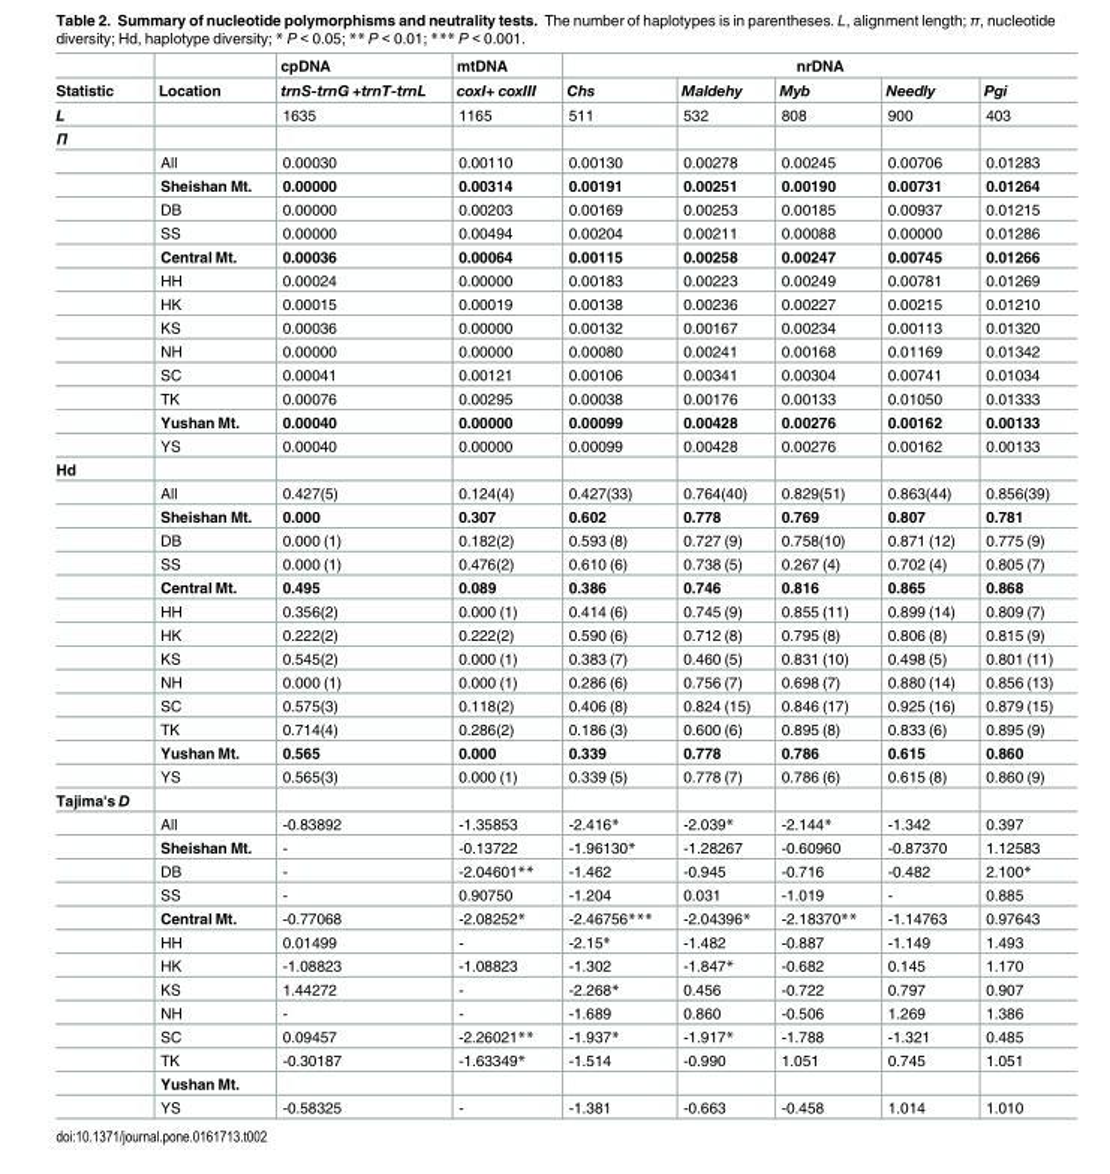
<table><thead><tr><td rowspan="2">Statistic</td><td rowspan="2">Location</td><td rowspan="2">cpDNA trnS-trnG +trnT-trnL</td><td rowspan="2">mtDNA coxI+ coxIII</td><td colspan="5">nrDNA</td></tr><tr><td>Chs</td><td>Maldehy</td><td>Myb</td><td>Needly</td><td>Pgi</td></tr></thead><tbody><tr><td>L</td><td></td><td>1635</td><td>1165</td><td>511</td><td>532</td><td>808</td><td>900</td><td>403</td></tr><tr><td colspan="9">Π</td></tr><tr><td></td><td>All</td><td>0.00030</td><td>0.00110</td><td>0.00130</td><td>0.00278</td><td>0.00245</td><td>0.00706</td><td>0.01283</td></tr><tr><td></td><td>Sheishan Mt.</td><td>0.00000</td><td>0.00314</td><td>0.00191</td><td>0.00251</td><td>0.00190</td><td>0.00731</td><td>0.01264</td></tr><tr><td></td><td>DB</td><td>0.00000</td><td>0.00203</td><td>0.00169</td><td>0.00253</td><td>0.00185</td><td>0.00937</td><td>0.01215</td></tr><tr><td></td><td>SS</td><td>0.00000</td><td>0.00494</td><td>0.00204</td><td>0.00211</td><td>0.00088</td><td>0.00000</td><td>0.01286</td></tr><tr><td></td><td>Central Mt.</td><td>0.00036</td><td>0.00064</td><td>0.00115</td><td>0.00258</td><td>0.00247</td><td>0.00745</td><td>0.01266</td></tr><tr><td></td><td>HH</td><td>0.00024</td><td>0.00000</td><td>0.00183</td><td>0.00223</td><td>0.00249</td><td>0.00781</td><td>0.01269</td></tr><tr><td></td><td>HK</td><td>0.00015</td><td>0.00019</td><td>0.00138</td><td>0.00236</td><td>0.00227</td><td>0.00215</td><td>0.01210</td></tr><tr><td></td><td>KS</td><td>0.00036</td><td>0.00000</td><td>0.00132</td><td>0.00167</td><td>0.00234</td><td>0.00113</td><td>0.01320</td></tr><tr><td></td><td>NH</td><td>0.00000</td><td>0.00000</td><td>0.00080</td><td>0.00241</td><td>0.00168</td><td>0.01169</td><td>0.01342</td></tr><tr><td></td><td>SC</td><td>0.00041</td><td>0.00121</td><td>0.00106</td><td>0.00341</td><td>0.00304</td><td>0.00741</td><td>0.01034</td></tr><tr><td></td><td>TK</td><td>0.00076</td><td>0.00295</td><td>0.00038</td><td>0.00176</td><td>0.00133</td><td>0.01050</td><td>0.01333</td></tr><tr><td></td><td>Yushan Mt.</td><td>0.00040</td><td>0.00000</td><td>0.00099</td><td>0.00428</td><td>0.00276</td><td>0.00162</td><td>0.00133</td></tr><tr><td></td><td>YS</td><td>0.00040</td><td>0.00000</td><td>0.00099</td><td>0.00428</td><td>0.00276</td><td>0.00162</td><td>0.00133</td></tr><tr><td colspan="9">Hd</td></tr><tr><td></td><td>All</td><td>0.427(5)</td><td>0.124(4)</td><td>0.427(33)</td><td>0.764(40)</td><td>0.829(51)</td><td>0.863(44)</td><td>0.856(39)</td></tr><tr><td></td><td>Sheishan Mt.</td><td>0.000</td><td>0.307</td><td>0.602</td><td>0.778</td><td>0.769</td><td>0.807</td><td>0.781</td></tr><tr><td></td><td>DB</td><td>0.000 (1)</td><td>0.182(2)</td><td>0.593 (8)</td><td>0.727 (9)</td><td>0.758(10)</td><td>0.871 (12)</td><td>0.775 (9)</td></tr><tr><td></td><td>SS</td><td>0.000 (1)</td><td>0.476(2)</td><td>0.610 (6)</td><td>0.738 (5)</td><td>0.267 (4)</td><td>0.702 (4)</td><td>0.805 (7)</td></tr><tr><td></td><td>Central Mt.</td><td>0.495</td><td>0.089</td><td>0.386</td><td>0.746</td><td>0.816</td><td>0.865</td><td>0.868</td></tr><tr><td></td><td>HH</td><td>0.356(2)</td><td>0.000 (1)</td><td>0.414 (6)</td><td>0.745 (9)</td><td>0.855 (11)</td><td>0.899 (14)</td><td>0.809 (7)</td></tr><tr><td></td><td>HK</td><td>0.222(2)</td><td>0.222(2)</td><td>0.590 (6)</td><td>0.712 (8)</td><td>0.795 (8)</td><td>0.806 (8)</td><td>0.815 (9)</td></tr><tr><td></td><td>KS</td><td>0.545(2)</td><td>0.000 (1)</td><td>0.383 (7)</td><td>0.460 (5)</td><td>0.831 (10)</td><td>0.498 (5)</td><td>0.801 (11)</td></tr><tr><td></td><td>NH</td><td>0.000 (1)</td><td>0.000 (1)</td><td>0.286 (6)</td><td>0.756 (7)</td><td>0.698 (7)</td><td>0.880 (14)</td><td>0.856 (13)</td></tr><tr><td></td><td>SC</td><td>0.575(3)</td><td>0.118(2)</td><td>0.406 (8)</td><td>0.824 (15)</td><td>0.846 (17)</td><td>0.925 (16)</td><td>0.879 (15)</td></tr><tr><td></td><td>TK</td><td>0.714(4)</td><td>0.286(2)</td><td>0.186 (3)</td><td>0.600 (6)</td><td>0.895 (8)</td><td>0.833 (6)</td><td>0.895 (9)</td></tr><tr><td></td><td>Yushan Mt.</td><td>0.565</td><td>0.000</td><td>0.339</td><td>0.778</td><td>0.786</td><td>0.615</td><td>0.860</td></tr><tr><td></td><td>YS</td><td>0.565(3)</td><td>0.000 (1)</td><td>0.339 (5)</td><td>0.778 (7)</td><td>0.786 (6)</td><td>0.615 (8)</td><td>0.860 (9)</td></tr><tr><td colspan="9">Tajima&#x27;s D</td></tr><tr><td></td><td>All</td><td>-0.83892</td><td>-1.35853</td><td>-2.416*</td><td>-2.039*</td><td>-2.144*</td><td>-1.342</td><td>0.397</td></tr><tr><td></td><td>Sheishan Mt.</td><td>-</td><td>-0.13722</td><td>-1.96130*</td><td>-1.28267</td><td>-0.60960</td><td>-0.87370</td><td>1.12583</td></tr><tr><td></td><td>DB</td><td>-</td><td>-2.04601**</td><td>-1.462</td><td>-0.945</td><td>-0.716</td><td>-0.482</td><td>2.100*</td></tr><tr><td></td><td>SS</td><td>-</td><td>0.90750</td><td>-1.204</td><td>0.031</td><td>-1.019</td><td>-</td><td>0.885</td></tr><tr><td></td><td>Central Mt.</td><td>-0.77068</td><td>-2.08252*</td><td>-2.46756***</td><td>-2.04396*</td><td>-2.18370**</td><td>-1.14763</td><td>0.97643</td></tr><tr><td></td><td>HH</td><td>0.01499</td><td>-</td><td>-2.15*</td><td>-1.482</td><td>-0.887</td><td>-1.149</td><td>1.493</td></tr><tr><td></td><td>HK</td><td>-1.08823</td><td>-1.08823</td><td>-1.302</td><td>-1.847*</td><td>-0.682</td><td>0.145</td><td>1.170</td></tr><tr><td></td><td>KS</td><td>1.44272</td><td>-</td><td>-2.268*</td><td>0.456</td><td>-0.722</td><td>0.797</td><td>0.907</td></tr><tr><td></td><td>NH</td><td>-</td><td>-</td><td>-1.689</td><td>0.860</td><td>-0.506</td><td>1.269</td><td>1.386</td></tr><tr><td></td><td>SC</td><td>0.09457</td><td>-2.26021**</td><td>-1.937*</td><td>-1.917*</td><td>-1.788</td><td>-1.321</td><td>0.485</td></tr><tr><td></td><td>TK</td><td>-0.30187</td><td>-1.63349*</td><td>-1.514</td><td>-0.990</td><td>1.051</td><td>0.745</td><td>1.051</td></tr><tr><td></td><td>Yushan Mt.</td><td></td><td></td><td></td><td></td><td></td><td></td><td></td></tr><tr><td></td><td>YS</td><td>-0.58325</td><td>-</td><td>-1.381</td><td>-0.663</td><td>-0.458</td><td>1.014</td><td>1.010</td></tr></tbody></table>